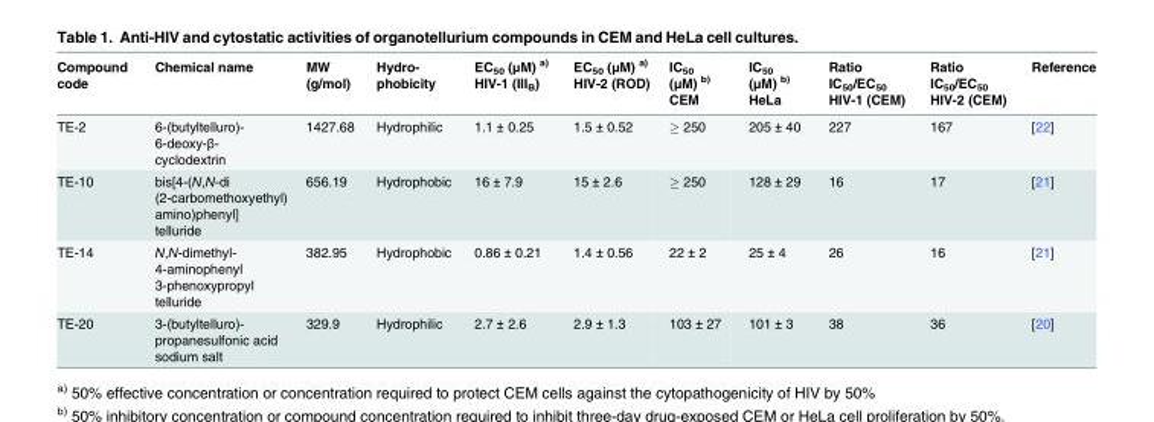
<table><thead><tr><td>Compound code</td><td>Chemical name</td><td>MW (g/mol)</td><td>Hydro- phobicity</td><td>EC<sub>50</sub> (μM) <sup>a)</sup> HIV-1 (III<sub>B</sub>)</td><td>EC<sub>50</sub> (μM) <sup>a)</sup> HIV-2 (ROD)</td><td>IC<sub>50</sub> (μM) <sup>b)</sup> CEM</td><td>IC<sub>50</sub> (μM) <sup>b)</sup> HeLa</td><td>Ratio IC<sub>50</sub>/EC<sub>50</sub> HIV-1 (CEM)</td><td>Ratio IC<sub>50</sub>/EC<sub>50</sub> HIV-2 (CEM)</td><td>Reference</td></tr></thead><tbody><tr><td>TE-2</td><td>6-(butyltelluro)- 6-deoxy-β- cyclodextrin</td><td>1427.68</td><td>Hydrophilic</td><td>1.1 ± 0.25</td><td>1.5 ± 0.52</td><td>≥ 250</td><td>205 ± 40</td><td>227</td><td>167</td><td>[22]</td></tr><tr><td>TE-10</td><td>bis[4-(N,N-di (2-carbomethoxyethyl) amino)phenyl] telluride</td><td>656.19</td><td>Hydrophobic</td><td>16 ± 7.9</td><td>15 ± 2.6</td><td>≥ 250</td><td>128 ± 29</td><td>16</td><td>17</td><td>[21]</td></tr><tr><td>TE-14</td><td>N,N-dimethyl- 4-aminophenyl 3-phenoxypropyl telluride</td><td>382.95</td><td>Hydrophobic</td><td>0.86 ± 0.21</td><td>1.4 ± 0.56</td><td>22 ± 2</td><td>25 ± 4</td><td>26</td><td>16</td><td>[21]</td></tr><tr><td>TE-20</td><td>3-(butyltelluro)- propanesulfonic acid sodium salt</td><td>329.9</td><td>Hydrophilic</td><td>2.7 ± 2.6</td><td>2.9 ± 1.3</td><td>103 ± 27</td><td>101 ± 3</td><td>38</td><td>36</td><td>[20]</td></tr></tbody></table>